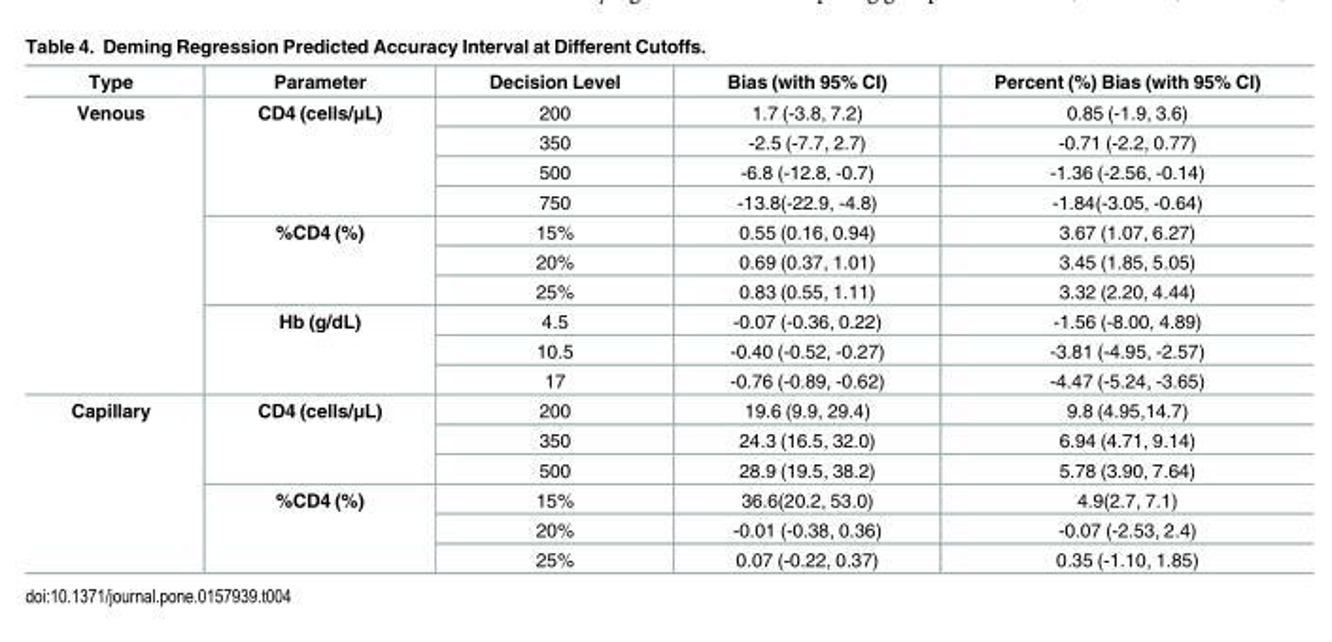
<table><thead><tr><td>Type</td><td>Parameter</td><td>Decision Level</td><td>Bias (with 95% CI)</td><td>Percent (%) Bias (with 95% CI)</td></tr></thead><tbody><tr><td rowspan="10">Venous</td><td rowspan="4">CD4 (cells/μL)</td><td>200</td><td>1.7 (-3.8, 7.2)</td><td>0.85 (-1.9, 3.6)</td></tr><tr><td>350</td><td>-2.5 (-7.7, 2.7)</td><td>-0.71 (-2.2, 0.77)</td></tr><tr><td>500</td><td>-6.8 (-12.8, -0.7)</td><td>-1.36 (-2.56, -0.14)</td></tr><tr><td>750</td><td>-13.8(-22.9, -4.8)</td><td>-1.84(-3.05, -0.64)</td></tr><tr><td rowspan="3">%CD4 (%)</td><td>15%</td><td>0.55 (0.16, 0.94)</td><td>3.67 (1.07, 6.27)</td></tr><tr><td>20%</td><td>0.69 (0.37, 1.01)</td><td>3.45 (1.85, 5.05)</td></tr><tr><td>25%</td><td>0.83 (0.55, 1.11)</td><td>3.32 (2.20, 4.44)</td></tr><tr><td rowspan="3">Hb (g/dL)</td><td>4.5</td><td>-0.07 (-0.36, 0.22)</td><td>-1.56 (-8.00, 4.89)</td></tr><tr><td>10.5</td><td>-0.40 (-0.52, -0.27)</td><td>-3.81 (-4.95, -2.57)</td></tr><tr><td>17</td><td>-0.76 (-0.89, -0.62)</td><td>-4.47 (-5.24, -3.65)</td></tr><tr><td rowspan="6">Capillary</td><td rowspan="3">CD4 (cells/μL)</td><td>200</td><td>19.6 (9.9, 29.4)</td><td>9.8 (4.95,14.7)</td></tr><tr><td>350</td><td>24.3 (16.5, 32.0)</td><td>6.94 (4.71, 9.14)</td></tr><tr><td>500</td><td>28.9 (19.5, 38.2)</td><td>5.78 (3.90, 7.64)</td></tr><tr><td rowspan="3">%CD4 (%)</td><td>15%</td><td>36.6(20.2, 53.0)</td><td>4.9(2.7, 7.1)</td></tr><tr><td>20%</td><td>-0.01 (-0.38, 0.36)</td><td>-0.07 (-2.53, 2.4)</td></tr><tr><td>25%</td><td>0.07 (-0.22, 0.37)</td><td>0.35 (-1.10, 1.85)</td></tr></tbody></table>